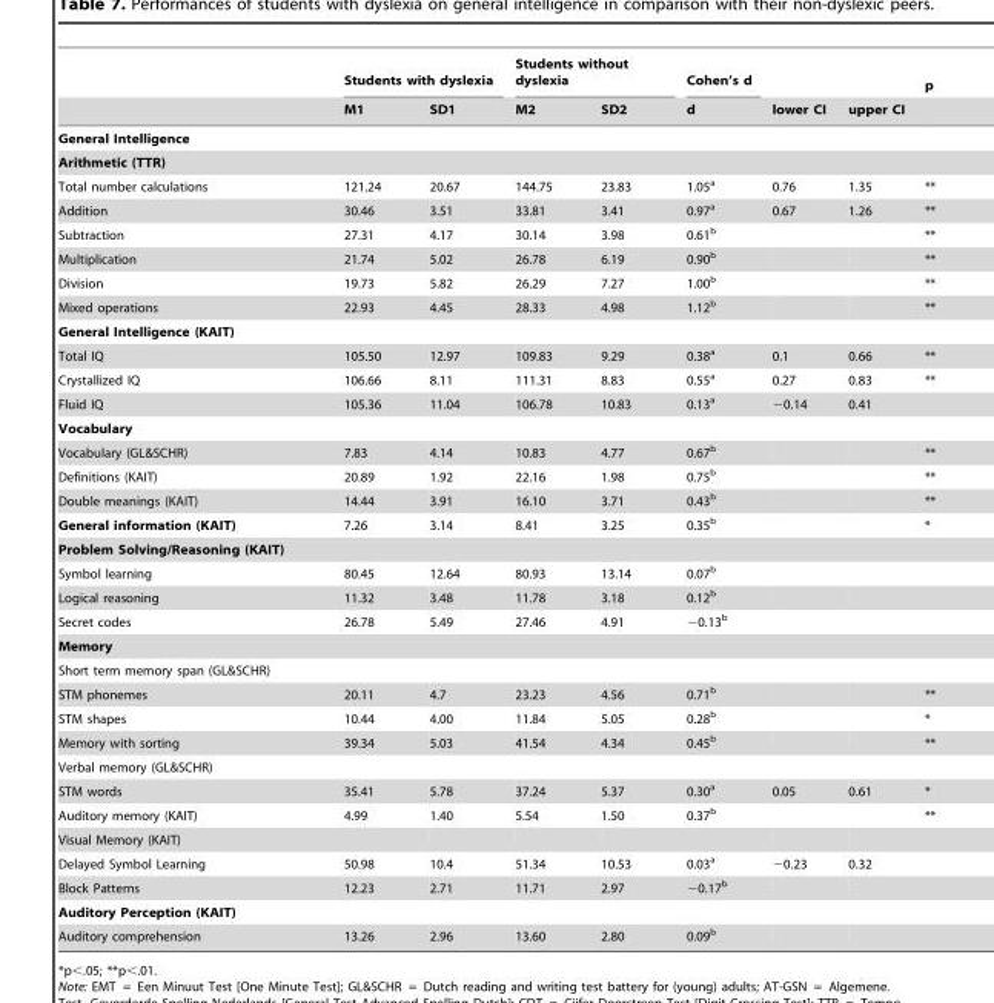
<table><thead><tr><td rowspan="2"></td><td colspan="2">Students with dyslexia</td><td colspan="2">Students without dyslexia</td><td rowspan="2">Cohen’s d d</td><td rowspan="2">lower CI</td><td rowspan="2">upper CI</td><td rowspan="2">p</td></tr><tr><td>M1</td><td>SD1</td><td>M2</td><td>SD2</td></tr></thead><tbody><tr><td colspan="9">General Intelligence</td></tr><tr><td colspan="9">Arithmetic (TTR)</td></tr><tr><td>Total number calculations</td><td>121.24</td><td>20.67</td><td>144.75</td><td>23.83</td><td>1.05<sup>a</sup></td><td>0.76</td><td>1.35</td><td>**</td></tr><tr><td>Addition</td><td>30.46</td><td>3.51</td><td>33.81</td><td>3.41</td><td>0.97<sup>a</sup></td><td>0.67</td><td>1.26</td><td>**</td></tr><tr><td>Subtraction</td><td>27.31</td><td>4.17</td><td>30.14</td><td>3.98</td><td>0.61<sup>b</sup></td><td></td><td></td><td>**</td></tr><tr><td>Multiplication</td><td>21.74</td><td>5.02</td><td>26.78</td><td>6.19</td><td>0.90<sup>b</sup></td><td></td><td></td><td>**</td></tr><tr><td>Division</td><td>19.73</td><td>5.82</td><td>26.29</td><td>7.27</td><td>1.00<sup>b</sup></td><td></td><td></td><td>**</td></tr><tr><td>Mixed operations</td><td>22.93</td><td>4.45</td><td>28.33</td><td>4.98</td><td>1.12<sup>b</sup></td><td></td><td></td><td>**</td></tr><tr><td colspan="9">General Intelligence (KAIT)</td></tr><tr><td>Total IQ</td><td>105.50</td><td>12.97</td><td>109.83</td><td>9.29</td><td>0.38<sup>a</sup></td><td>0.1</td><td>0.66</td><td>**</td></tr><tr><td>Crystallized IQ</td><td>106.66</td><td>8.11</td><td>111.31</td><td>8.83</td><td>0.55<sup>a</sup></td><td>0.27</td><td>0.83</td><td>**</td></tr><tr><td>Fluid IQ</td><td>105.36</td><td>11.04</td><td>106.78</td><td>10.83</td><td>0.13<sup>a</sup></td><td>−0.14</td><td>0.41</td><td></td></tr><tr><td colspan="9">Vocabulary</td></tr><tr><td>Vocabulary (GL&amp;SCHR)</td><td>7.83</td><td>4.14</td><td>10.83</td><td>4.77</td><td>0.67<sup>b</sup></td><td></td><td></td><td>**</td></tr><tr><td>Definitions (KAIT)</td><td>20.89</td><td>1.92</td><td>22.16</td><td>1.98</td><td>0.75<sup>b</sup></td><td></td><td></td><td>**</td></tr><tr><td>Double meanings (KAIT)</td><td>14.44</td><td>3.91</td><td>16.10</td><td>3.71</td><td>0.43<sup>b</sup></td><td></td><td></td><td>**</td></tr><tr><td>General information (KAIT)</td><td>7.26</td><td>3.14</td><td>8.41</td><td>3.25</td><td>0.35<sup>b</sup></td><td></td><td></td><td>*</td></tr><tr><td colspan="9">Problem Solving/Reasoning (KAIT)</td></tr><tr><td>Symbol learning</td><td>80.45</td><td>12.64</td><td>80.93</td><td>13.14</td><td>0.07<sup>b</sup></td><td></td><td></td><td></td></tr><tr><td>Logical reasoning</td><td>11.32</td><td>3.48</td><td>11.78</td><td>3.18</td><td>0.12<sup>b</sup></td><td></td><td></td><td></td></tr><tr><td>Secret codes</td><td>26.78</td><td>5.49</td><td>27.46</td><td>4.91</td><td>−0.13<sup>b</sup></td><td></td><td></td><td></td></tr><tr><td colspan="9">Memory</td></tr><tr><td colspan="9">Short term memory span (GL&amp;SCHR)</td></tr><tr><td>STM phonemes</td><td>20.11</td><td>4.7</td><td>23.23</td><td>4.56</td><td>0.71<sup>b</sup></td><td></td><td></td><td>**</td></tr><tr><td>STM shapes</td><td>10.44</td><td>4.00</td><td>11.84</td><td>5.05</td><td>0.28<sup>b</sup></td><td></td><td></td><td>*</td></tr><tr><td>Memory with sorting</td><td>39.34</td><td>5.03</td><td>41.54</td><td>4.34</td><td>0.45<sup>b</sup></td><td></td><td></td><td>**</td></tr><tr><td colspan="9">Verbal memory (GL&amp;SCHR)</td></tr><tr><td>STM words</td><td>35.41</td><td>5.78</td><td>37.24</td><td>5.37</td><td>0.30<sup>a</sup></td><td>0.05</td><td>0.61</td><td>*</td></tr><tr><td>Auditory memory (KAIT)</td><td>4.99</td><td>1.40</td><td>5.54</td><td>1.50</td><td>0.37<sup>b</sup></td><td></td><td></td><td>**</td></tr><tr><td colspan="9">Visual Memory (KAIT)</td></tr><tr><td>Delayed Symbol Learning</td><td>50.98</td><td>10.4</td><td>51.34</td><td>10.53</td><td>0.03<sup>a</sup></td><td>−0.23</td><td>0.32</td><td></td></tr><tr><td>Block Patterns</td><td>12.23</td><td>2.71</td><td>11.71</td><td>2.97</td><td>−0.17<sup>b</sup></td><td></td><td></td><td></td></tr><tr><td colspan="9">Auditory Perception (KAIT)</td></tr><tr><td>Auditory comprehension</td><td>13.26</td><td>2.96</td><td>13.60</td><td>2.80</td><td>0.09<sup>b</sup></td><td></td><td></td><td></td></tr></tbody></table>